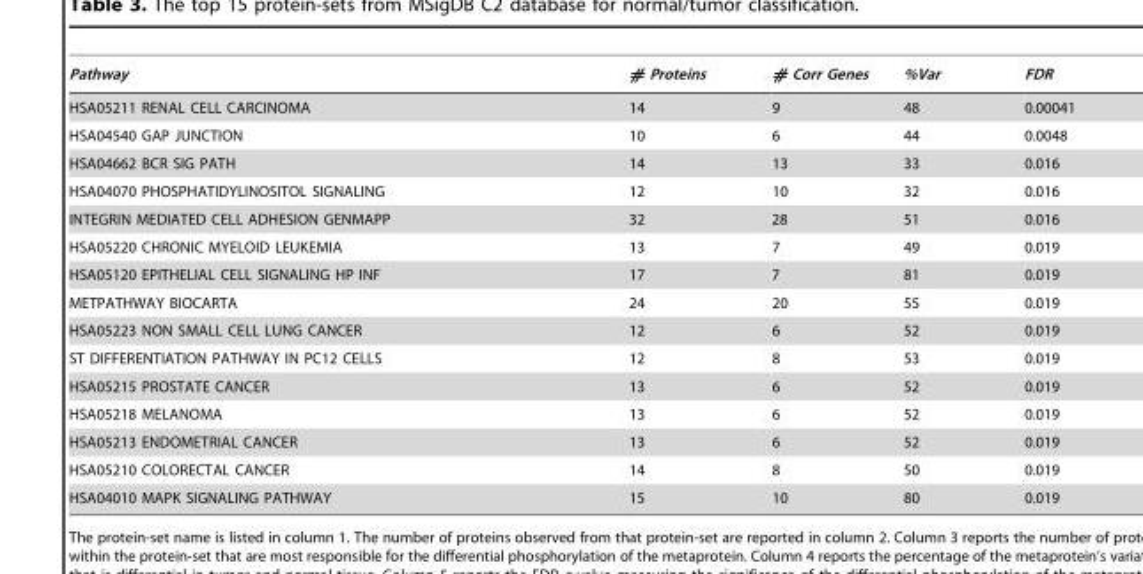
<table><thead><tr><td>Pathway</td><td># Proteins</td><td># Corr Genes</td><td>%Var</td><td>FDR</td></tr></thead><tbody><tr><td>HSA05211 RENAL CELL CARCINOMA</td><td>14</td><td>9</td><td>48</td><td>0.00041</td></tr><tr><td>HSA04540 GAP JUNCTION</td><td>10</td><td>6</td><td>44</td><td>0.0048</td></tr><tr><td>HSA04662 BCR SIG PATH</td><td>14</td><td>13</td><td>33</td><td>0.016</td></tr><tr><td>HSA04070 PHOSPHATIDYLINOSITOL SIGNALING</td><td>12</td><td>10</td><td>32</td><td>0.016</td></tr><tr><td>INTEGRIN MEDIATED CELL ADHESION GENMAPP</td><td>32</td><td>28</td><td>51</td><td>0.016</td></tr><tr><td>HSA05220 CHRONIC MYELOID LEUKEMIA</td><td>13</td><td>7</td><td>49</td><td>0.019</td></tr><tr><td>HSA05120 EPITHELIAL CELL SIGNALING HP INF</td><td>17</td><td>7</td><td>81</td><td>0.019</td></tr><tr><td>METPATHWAY BIOCARTA</td><td>24</td><td>20</td><td>55</td><td>0.019</td></tr><tr><td>HSA05223 NON SMALL CELL LUNG CANCER</td><td>12</td><td>6</td><td>52</td><td>0.019</td></tr><tr><td>ST DIFFERENTIATION PATHWAY IN PC12 CELLS</td><td>12</td><td>8</td><td>53</td><td>0.019</td></tr><tr><td>HSA05215 PROSTATE CANCER</td><td>13</td><td>6</td><td>52</td><td>0.019</td></tr><tr><td>HSA05218 MELANOMA</td><td>13</td><td>6</td><td>52</td><td>0.019</td></tr><tr><td>HSA05213 ENDOMETRIAL CANCER</td><td>13</td><td>6</td><td>52</td><td>0.019</td></tr><tr><td>HSA05210 COLORECTAL CANCER</td><td>14</td><td>8</td><td>50</td><td>0.019</td></tr><tr><td>HSA04010 MAPK SIGNALING PATHWAY</td><td>15</td><td>10</td><td>80</td><td>0.019</td></tr></tbody></table>